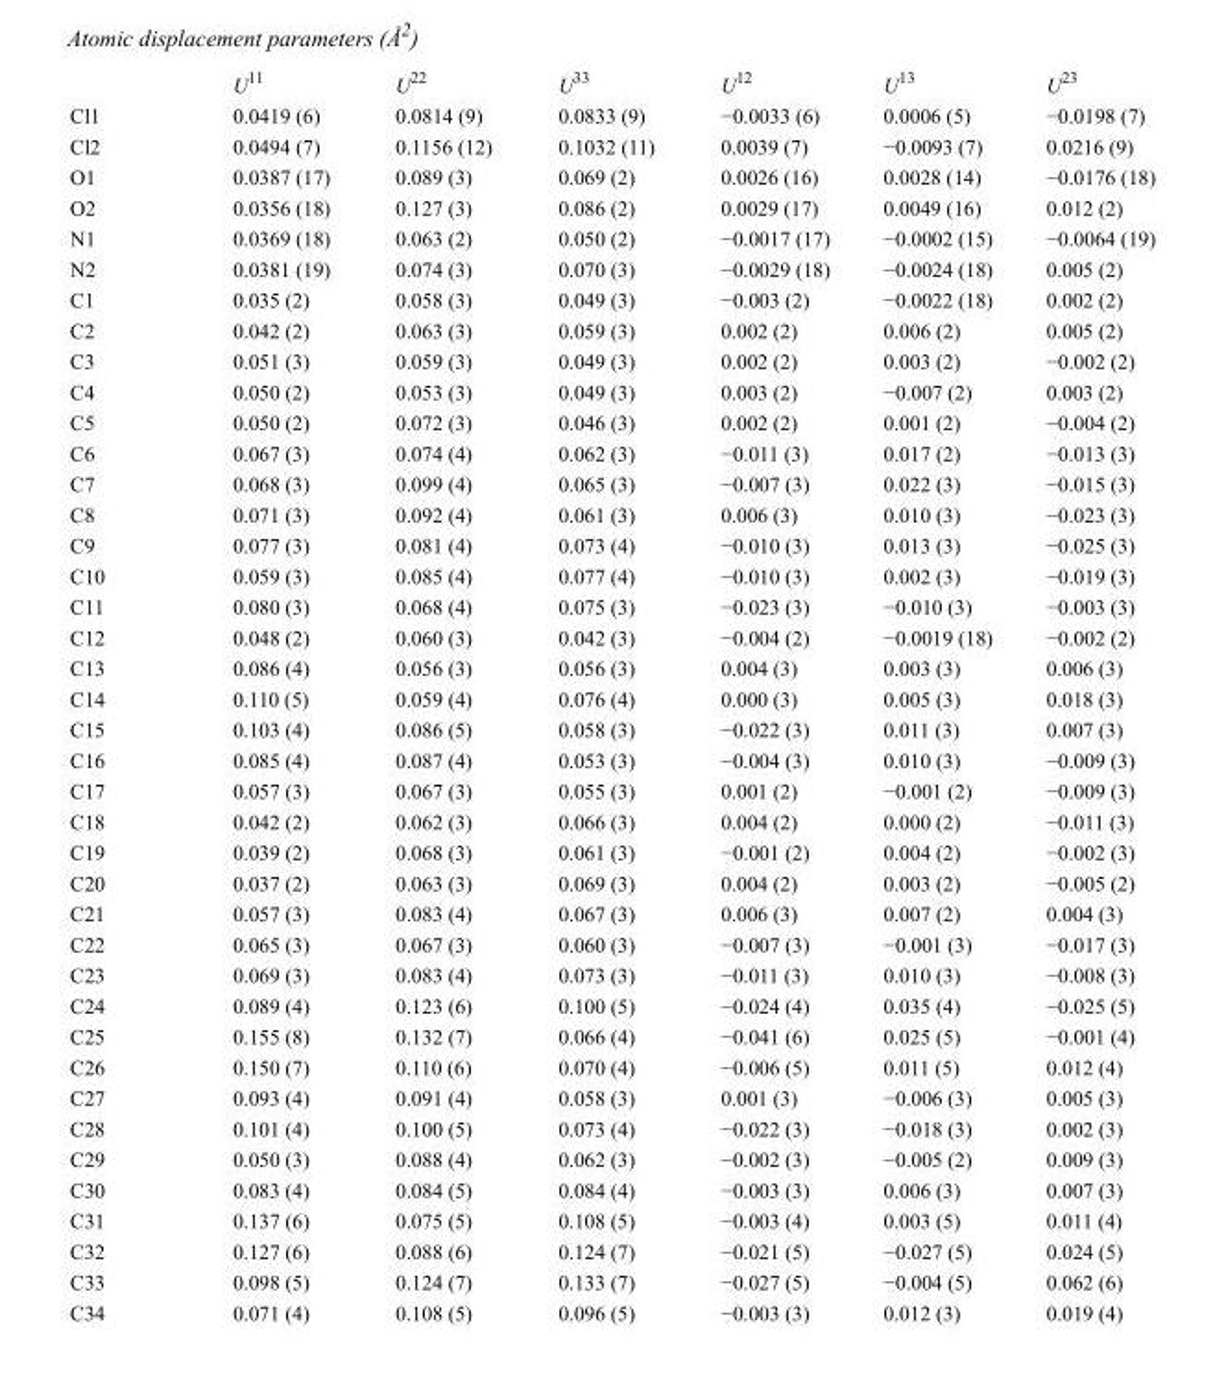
<table><thead><tr><td></td><td>U<sup>11</sup></td><td>U<sup>22</sup></td><td>U<sup>33</sup></td><td>U<sup>12</sup></td><td>U<sup>13</sup></td><td>U<sup>23</sup></td></tr></thead><tbody><tr><td>Cl1</td><td>0.0419 (6)</td><td>0.0814 (9)</td><td>0.0833 (9)</td><td>−0.0033 (6)</td><td>0.0006 (5)</td><td>−0.0198 (7)</td></tr><tr><td>Cl2</td><td>0.0494 (7)</td><td>0.1156 (12)</td><td>0.1032 (11)</td><td>0.0039 (7)</td><td>−0.0093 (7)</td><td>0.0216 (9)</td></tr><tr><td>O1</td><td>0.0387 (17)</td><td>0.089 (3)</td><td>0.069 (2)</td><td>0.0026 (16)</td><td>0.0028 (14)</td><td>−0.0176 (18)</td></tr><tr><td>O2</td><td>0.0356 (18)</td><td>0.127 (3)</td><td>0.086 (2)</td><td>0.0029 (17)</td><td>0.0049 (16)</td><td>0.012 (2)</td></tr><tr><td>N1</td><td>0.0369 (18)</td><td>0.063 (2)</td><td>0.050 (2)</td><td>−0.0017 (17)</td><td>−0.0002 (15)</td><td>−0.0064 (19)</td></tr><tr><td>N2</td><td>0.0381 (19)</td><td>0.074 (3)</td><td>0.070 (3)</td><td>−0.0029 (18)</td><td>−0.0024 (18)</td><td>0.005 (2)</td></tr><tr><td>C1</td><td>0.035 (2)</td><td>0.058 (3)</td><td>0.049 (3)</td><td>−0.003 (2)</td><td>−0.0022 (18)</td><td>0.002 (2)</td></tr><tr><td>C2</td><td>0.042 (2)</td><td>0.063 (3)</td><td>0.059 (3)</td><td>0.002 (2)</td><td>0.006 (2)</td><td>0.005 (2)</td></tr><tr><td>C3</td><td>0.051 (3)</td><td>0.059 (3)</td><td>0.049 (3)</td><td>0.002 (2)</td><td>0.003 (2)</td><td>−0.002 (2)</td></tr><tr><td>C4</td><td>0.050 (2)</td><td>0.053 (3)</td><td>0.049 (3)</td><td>0.003 (2)</td><td>−0.007 (2)</td><td>0.003 (2)</td></tr><tr><td>C5</td><td>0.050 (2)</td><td>0.072 (3)</td><td>0.046 (3)</td><td>0.002 (2)</td><td>0.001 (2)</td><td>−0.004 (2)</td></tr><tr><td>C6</td><td>0.067 (3)</td><td>0.074 (4)</td><td>0.062 (3)</td><td>−0.011 (3)</td><td>0.017 (2)</td><td>−0.013 (3)</td></tr><tr><td>C7</td><td>0.068 (3)</td><td>0.099 (4)</td><td>0.065 (3)</td><td>−0.007 (3)</td><td>0.022 (3)</td><td>−0.015 (3)</td></tr><tr><td>C8</td><td>0.071 (3)</td><td>0.092 (4)</td><td>0.061 (3)</td><td>0.006 (3)</td><td>0.010 (3)</td><td>−0.023 (3)</td></tr><tr><td>C9</td><td>0.077 (3)</td><td>0.081 (4)</td><td>0.073 (4)</td><td>−0.010 (3)</td><td>0.013 (3)</td><td>−0.025 (3)</td></tr><tr><td>C10</td><td>0.059 (3)</td><td>0.085 (4)</td><td>0.077 (4)</td><td>−0.010 (3)</td><td>0.002 (3)</td><td>−0.019 (3)</td></tr><tr><td>C11</td><td>0.080 (3)</td><td>0.068 (4)</td><td>0.075 (3)</td><td>−0.023 (3)</td><td>−0.010 (3)</td><td>−0.003 (3)</td></tr><tr><td>C12</td><td>0.048 (2)</td><td>0.060 (3)</td><td>0.042 (3)</td><td>−0.004 (2)</td><td>−0.0019 (18)</td><td>−0.002 (2)</td></tr><tr><td>C13</td><td>0.086 (4)</td><td>0.056 (3)</td><td>0.056 (3)</td><td>0.004 (3)</td><td>0.003 (3)</td><td>0.006 (3)</td></tr><tr><td>C14</td><td>0.110 (5)</td><td>0.059 (4)</td><td>0.076 (4)</td><td>0.000 (3)</td><td>0.005 (3)</td><td>0.018 (3)</td></tr><tr><td>C15</td><td>0.103 (4)</td><td>0.086 (5)</td><td>0.058 (3)</td><td>−0.022 (3)</td><td>0.011 (3)</td><td>0.007 (3)</td></tr><tr><td>C16</td><td>0.085 (4)</td><td>0.087 (4)</td><td>0.053 (3)</td><td>−0.004 (3)</td><td>0.010 (3)</td><td>−0.009 (3)</td></tr><tr><td>C17</td><td>0.057 (3)</td><td>0.067 (3)</td><td>0.055 (3)</td><td>0.001 (2)</td><td>−0.001 (2)</td><td>−0.009 (3)</td></tr><tr><td>C18</td><td>0.042 (2)</td><td>0.062 (3)</td><td>0.066 (3)</td><td>0.004 (2)</td><td>0.000 (2)</td><td>−0.011 (3)</td></tr><tr><td>C19</td><td>0.039 (2)</td><td>0.068 (3)</td><td>0.061 (3)</td><td>−0.001 (2)</td><td>0.004 (2)</td><td>−0.002 (3)</td></tr><tr><td>C20</td><td>0.037 (2)</td><td>0.063 (3)</td><td>0.069 (3)</td><td>0.004 (2)</td><td>0.003 (2)</td><td>−0.005 (2)</td></tr><tr><td>C21</td><td>0.057 (3)</td><td>0.083 (4)</td><td>0.067 (3)</td><td>0.006 (3)</td><td>0.007 (2)</td><td>0.004 (3)</td></tr><tr><td>C22</td><td>0.065 (3)</td><td>0.067 (3)</td><td>0.060 (3)</td><td>−0.007 (3)</td><td>−0.001 (3)</td><td>−0.017 (3)</td></tr><tr><td>C23</td><td>0.069 (3)</td><td>0.083 (4)</td><td>0.073 (3)</td><td>−0.011 (3)</td><td>0.010 (3)</td><td>−0.008 (3)</td></tr><tr><td>C24</td><td>0.089 (4)</td><td>0.123 (6)</td><td>0.100 (5)</td><td>−0.024 (4)</td><td>0.035 (4)</td><td>−0.025 (5)</td></tr><tr><td>C25</td><td>0.155 (8)</td><td>0.132 (7)</td><td>0.066 (4)</td><td>−0.041 (6)</td><td>0.025 (5)</td><td>−0.001 (4)</td></tr><tr><td>C26</td><td>0.150 (7)</td><td>0.110 (6)</td><td>0.070 (4)</td><td>−0.006 (5)</td><td>0.011 (5)</td><td>0.012 (4)</td></tr><tr><td>C27</td><td>0.093 (4)</td><td>0.091 (4)</td><td>0.058 (3)</td><td>0.001 (3)</td><td>−0.006 (3)</td><td>0.005 (3)</td></tr><tr><td>C28</td><td>0.101 (4)</td><td>0.100 (5)</td><td>0.073 (4)</td><td>−0.022 (3)</td><td>−0.018 (3)</td><td>0.002 (3)</td></tr><tr><td>C29</td><td>0.050 (3)</td><td>0.088 (4)</td><td>0.062 (3)</td><td>−0.002 (3)</td><td>−0.005 (2)</td><td>0.009 (3)</td></tr><tr><td>C30</td><td>0.083 (4)</td><td>0.084 (5)</td><td>0.084 (4)</td><td>−0.003 (3)</td><td>0.006 (3)</td><td>0.007 (3)</td></tr><tr><td>C31</td><td>0.137 (6)</td><td>0.075 (5)</td><td>0.108 (5)</td><td>−0.003 (4)</td><td>0.003 (5)</td><td>0.011 (4)</td></tr><tr><td>C32</td><td>0.127 (6)</td><td>0.088 (6)</td><td>0.124 (7)</td><td>−0.021 (5)</td><td>−0.027 (5)</td><td>0.024 (5)</td></tr><tr><td>C33</td><td>0.098 (5)</td><td>0.124 (7)</td><td>0.133 (7)</td><td>−0.027 (5)</td><td>−0.004 (5)</td><td>0.062 (6)</td></tr><tr><td>C34</td><td>0.071 (4)</td><td>0.108 (5)</td><td>0.096 (5)</td><td>−0.003 (3)</td><td>0.012 (3)</td><td>0.019 (4)</td></tr></tbody></table>